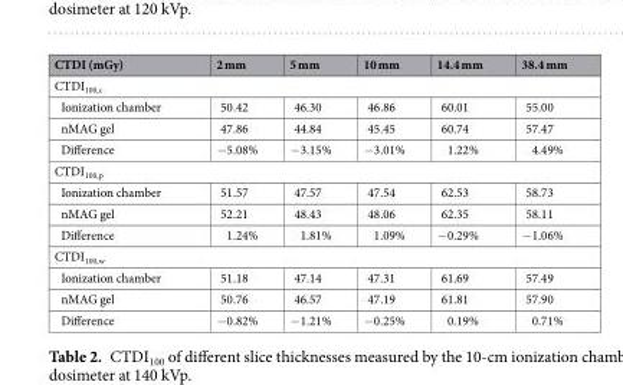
<table><thead><tr><td>CTDI (mGy)</td><td>2 mm</td><td>5 mm</td><td>10 mm</td><td>14.4 mm</td><td>38.4 mm</td></tr></thead><tbody><tr><td colspan="6">CTDI<sub>100,c</sub></td></tr><tr><td>Ionization chamber</td><td>50.42</td><td>46.30</td><td>46.86</td><td>60.01</td><td>55.00</td></tr><tr><td>nMAG gel</td><td>47.86</td><td>44.84</td><td>45.45</td><td>60.74</td><td>57.47</td></tr><tr><td>Difference</td><td>−5.08%</td><td>−3.15%</td><td>−3.01%</td><td>1.22%</td><td>4.49%</td></tr><tr><td colspan="6">CTDI<sub>100,p</sub></td></tr><tr><td>Ionization chamber</td><td>51.57</td><td>47.57</td><td>47.54</td><td>62.53</td><td>58.73</td></tr><tr><td>nMAG gel</td><td>52.21</td><td>48.43</td><td>48.06</td><td>62.35</td><td>58.11</td></tr><tr><td>Difference</td><td>1.24%</td><td>1.81%</td><td>1.09%</td><td>−0.29%</td><td>−1.06%</td></tr><tr><td colspan="6">CTDI<sub>100,w</sub></td></tr><tr><td>Ionization chamber</td><td>51.18</td><td>47.14</td><td>47.31</td><td>61.69</td><td>57.49</td></tr><tr><td>nMAG gel</td><td>50.76</td><td>46.57</td><td>47.19</td><td>61.81</td><td>57.90</td></tr><tr><td>Difference</td><td>−0.82%</td><td>−1.21%</td><td>−0.25%</td><td>0.19%</td><td>0.71%</td></tr></tbody></table>